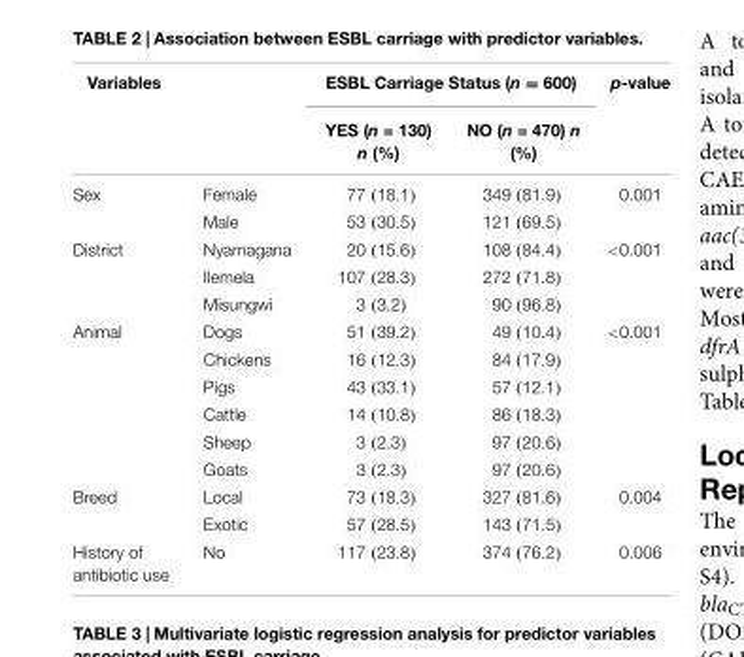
<table><thead><tr><td colspan="2">Variables</td><td colspan="2">ESBL Carriage Status (n = 600)</td><td rowspan="2">p-value</td></tr><tr><td></td><td></td><td>YES (n = 130) n (%)</td><td>NO (n = 470) n (%)</td></tr></thead><tbody><tr><td rowspan="2">Sex</td><td>Female</td><td>77 (18.1)</td><td>349 (81.9)</td><td>0.001</td></tr><tr><td>Male</td><td>53 (30.5)</td><td>121 (69.5)</td><td></td></tr><tr><td rowspan="3">District</td><td>Nyamagana</td><td>20 (15.6)</td><td>108 (84.4)</td><td>&lt;0.001</td></tr><tr><td>Ilemela</td><td>107 (28.3)</td><td>272 (71.8)</td><td></td></tr><tr><td>Misungwi</td><td>3 (3.2)</td><td>90 (96.8)</td><td></td></tr><tr><td rowspan="6">Animal</td><td>Dogs</td><td>51 (39.2)</td><td>49 (10.4)</td><td>&lt;0.001</td></tr><tr><td>Chickens</td><td>16 (12.3)</td><td>84 (17.9)</td><td></td></tr><tr><td>Pigs</td><td>43 (33.1)</td><td>57 (12.1)</td><td></td></tr><tr><td>Cattle</td><td>14 (10.8)</td><td>86 (18.3)</td><td></td></tr><tr><td>Sheep</td><td>3 (2.3)</td><td>97 (20.6)</td><td></td></tr><tr><td>Goats</td><td>3 (2.3)</td><td>97 (20.6)</td><td></td></tr><tr><td rowspan="2">Breed</td><td>Local</td><td>73 (18.3)</td><td>327 (81.6)</td><td>0.004</td></tr><tr><td>Exotic</td><td>57 (28.5)</td><td>143 (71.5)</td><td></td></tr><tr><td>History of antibiotic use</td><td>No</td><td>117 (23.8)</td><td>374 (76.2)</td><td>0.006</td></tr></tbody></table>